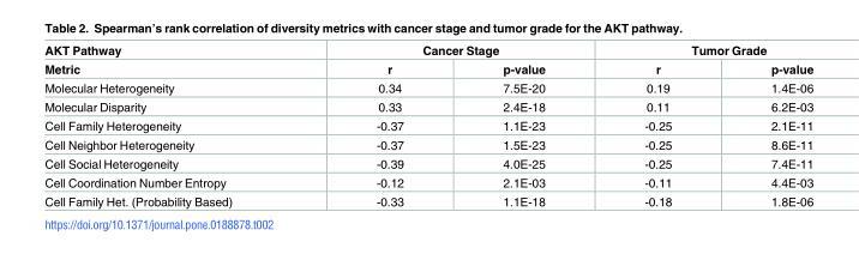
<table><thead><tr><td rowspan="2">AKT Pathway Metric</td><td colspan="2">Cancer Stage</td><td colspan="2">Tumor Grade</td></tr><tr><td>r</td><td>p-value</td><td>r</td><td>p-value</td></tr></thead><tbody><tr><td>Molecular Heterogeneity</td><td>0.34</td><td>7.5E-20</td><td>0.19</td><td>1.4E-06</td></tr><tr><td>Molecular Disparity</td><td>0.33</td><td>2.4E-18</td><td>0.11</td><td>6.2E-03</td></tr><tr><td>Cell Family Heterogeneity</td><td>-0.37</td><td>1.1E-23</td><td>-0.25</td><td>2.1E-11</td></tr><tr><td>Cell Neighbor Heterogeneity</td><td>-0.37</td><td>1.5E-23</td><td>-0.25</td><td>8.6E-11</td></tr><tr><td>Cell Social Heterogeneity</td><td>-0.39</td><td>4.0E-25</td><td>-0.25</td><td>7.4E-11</td></tr><tr><td>Cell Coordination Number Entropy</td><td>-0.12</td><td>2.1E-03</td><td>-0.11</td><td>4.4E-03</td></tr><tr><td>Cell Family Het. (Probability Based)</td><td>-0.33</td><td>1.1E-18</td><td>-0.18</td><td>1.8E-06</td></tr></tbody></table>